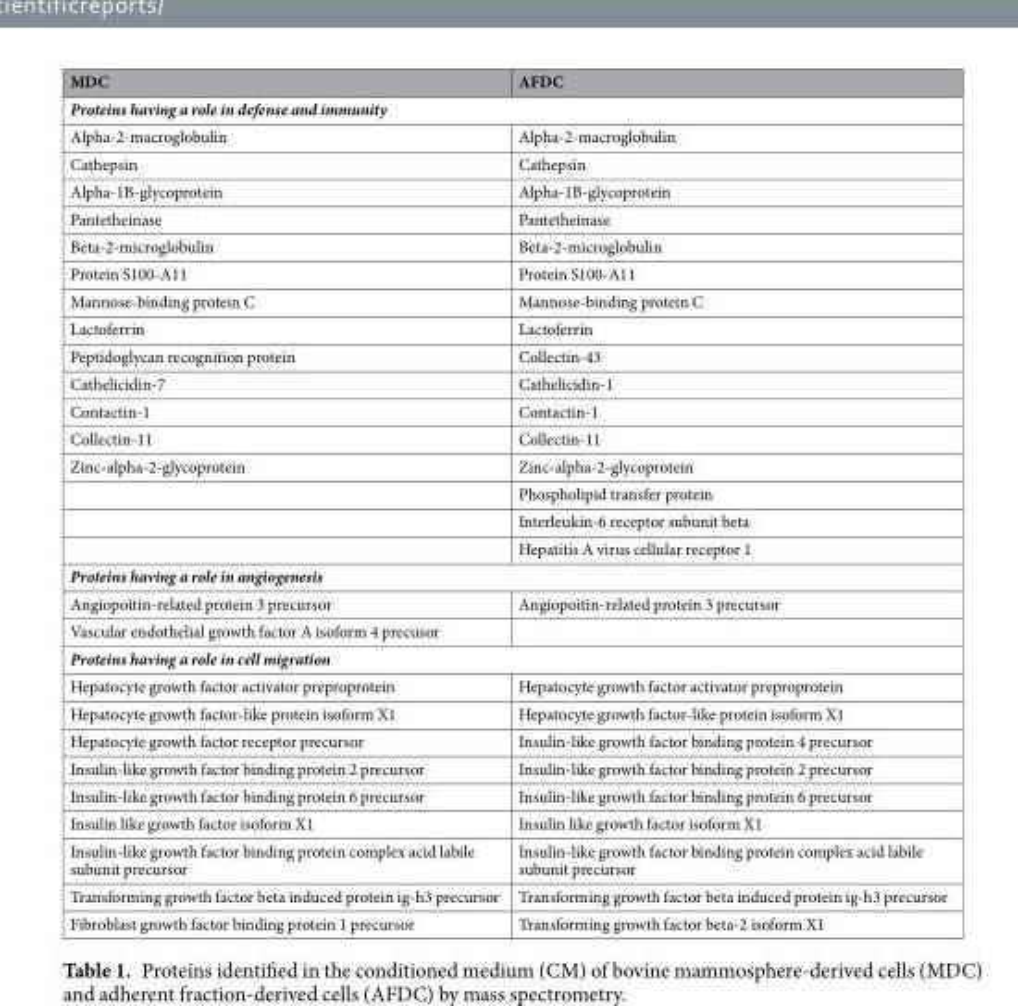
<table><thead><tr><td>MDC</td><td>AFDC</td></tr></thead><tbody><tr><td colspan="2">Proteins having a role in defense and immunity</td></tr><tr><td>Alpha-2-macroglobulin</td><td>Alpha-2-macroglobulin</td></tr><tr><td>Cathepsin</td><td>Cathepsin</td></tr><tr><td>Alpha-1B-glycoprotein</td><td>Alpha-1B-glycoprotein</td></tr><tr><td>Pantetheinase</td><td>Pantetheinase</td></tr><tr><td>Beta-2-microglobulin</td><td>Beta-2-microglobulin</td></tr><tr><td>Protein S100-A11</td><td>Protein S100-A11</td></tr><tr><td>Mannose-binding protein C</td><td>Mannose-binding protein C</td></tr><tr><td>Lactoferrin</td><td>Lactoferrin</td></tr><tr><td>Peptidoglycan recognition protein</td><td>Collectin-43</td></tr><tr><td>Cathelicidin-7</td><td>Cathelicidin-1</td></tr><tr><td>Contactin-1</td><td>Contactin-1</td></tr><tr><td>Collectin-11</td><td>Collectin-11</td></tr><tr><td rowspan="4">Zinc-alpha-2-glycoprotein</td><td>Zinc-alpha-2-glycoprotein</td></tr><tr><td>Phospholipid transfer protein</td></tr><tr><td>Interleukin-6 receptor subunit beta</td></tr><tr><td>Hepatitis A virus cellular receptor 1</td></tr><tr><td colspan="2">Proteins having a role in angiogenesis</td></tr><tr><td>Angiopoitin-related protein 3 precursor</td><td>Angiopoitin-related protein 3 precursor</td></tr><tr><td colspan="2">Vascular endothelial growth factor A isoform 4 precusor</td></tr><tr><td colspan="2">Proteins having a role in cell migration</td></tr><tr><td>Hepatocyte growth factor activator preproprotein</td><td>Hepatocyte growth factor activator preproprotein</td></tr><tr><td>Hepatocyte growth factor-like protein isoform X1</td><td>Hepatocyte growth factor-like protein isoform X1</td></tr><tr><td>Hepatocyte growth factor receptor precursor</td><td>Insulin-like growth factor binding protein 4 precursor</td></tr><tr><td>Insulin-like growth factor binding protein 2 precursor</td><td>Insulin-like growth factor binding protein 2 precursor</td></tr><tr><td>Insulin-like growth factor binding protein 6 precursor</td><td>Insulin-like growth factor binding protein 6 precursor</td></tr><tr><td>Insulin like growth factor isoform X1</td><td>Insulin like growth factor isoform X1</td></tr><tr><td>Insulin-like growth factor binding protein complex acid labile subunit precursor</td><td>Insulin-like growth factor binding protein complex acid labile subunit precursor</td></tr><tr><td>Transforming growth factor beta induced protein ig-h3 precursor</td><td>Transforming growth factor beta induced protein ig-h3 precursor</td></tr><tr><td>Fibroblast growth factor binding protein 1 precursor</td><td>Transforming growth factor beta-2 isoform X1</td></tr></tbody></table>